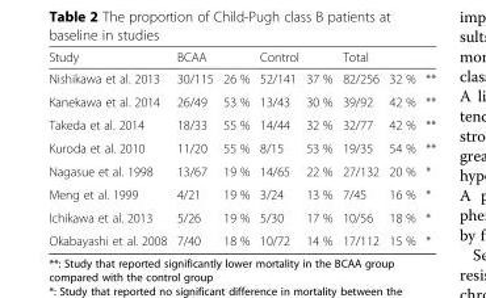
<table><thead><tr><td rowspan="2">Study Nishikawa et al. 2013</td><td colspan="2">BCAA</td><td colspan="2">Control</td><td colspan="2">Total</td><td rowspan="2">**</td></tr><tr><td>30/115</td><td>26 %</td><td>52/141</td><td>37 %</td><td>82/256</td><td>32 %</td></tr></thead><tbody><tr><td>Kanekawa et al. 2014</td><td>26/49</td><td>53 %</td><td>13/43</td><td>30 %</td><td>39/92</td><td>42 %</td><td>**</td></tr><tr><td>Takeda et al. 2014</td><td>18/33</td><td>55 %</td><td>14/44</td><td>32 %</td><td>32/77</td><td>42 %</td><td>**</td></tr><tr><td>Kuroda et al. 2010</td><td>11/20</td><td>55 %</td><td>8/15</td><td>53 %</td><td>19/35</td><td>54 %</td><td>**</td></tr><tr><td>Nagasue et al. 1998</td><td>13/67</td><td>19 %</td><td>14/65</td><td>22 %</td><td>27/132</td><td>20 %</td><td>*</td></tr><tr><td>Meng et al. 1999</td><td>4/21</td><td>19 %</td><td>3/24</td><td>13 %</td><td>7/45</td><td>16 %</td><td>*</td></tr><tr><td>Ichikawa et al. 2013</td><td>5/26</td><td>19 %</td><td>5/30</td><td>17 %</td><td>10/56</td><td>18 %</td><td>*</td></tr><tr><td>Okabayashi et al. 2008</td><td>7/40</td><td>18 %</td><td>10/72</td><td>14 %</td><td>17/112</td><td>15 %</td><td>*</td></tr></tbody></table>